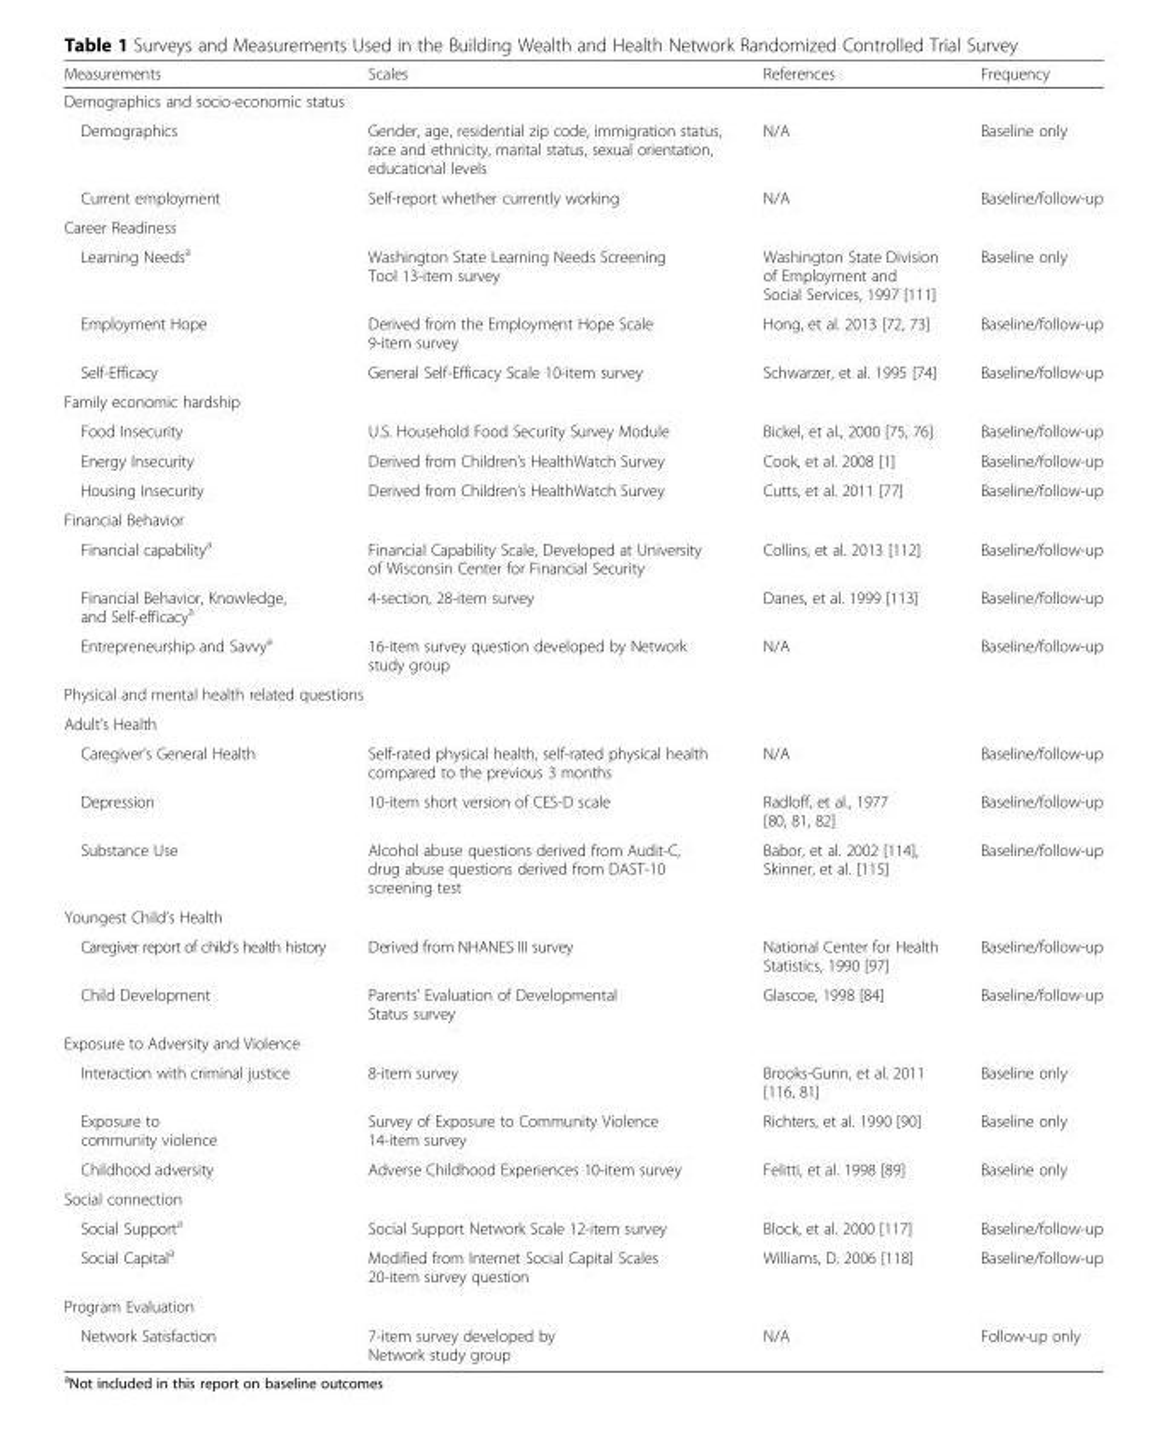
<table><thead><tr><td>Measurements</td><td>Scales</td><td>References</td><td>Frequency</td></tr></thead><tbody><tr><td colspan="4">Demographics and socio-economic status</td></tr><tr><td>Demographics</td><td>Gender, age, residential zip code, immigration status, race and ethnicity, marital status, sexual orientation, educational levels</td><td>N/A</td><td>Baseline only</td></tr><tr><td>Current employment</td><td>Self-report whether currently working</td><td>N/A</td><td>Baseline/follow-up</td></tr><tr><td colspan="4">Career Readiness</td></tr><tr><td>Learning Needs<sup>a</sup></td><td>Washington State Learning Needs Screening Tool 13-item survey</td><td>Washington State Division of Employment and Social Services, 1997 [111]</td><td>Baseline only</td></tr><tr><td>Employment Hope</td><td>Derived from the Employment Hope Scale 9-item survey</td><td>Hong, et al. 2013 [72, 73]</td><td>Baseline/follow-up</td></tr><tr><td>Self-Efficacy</td><td>General Self-Efficacy Scale 10-item survey</td><td>Schwarzer, et al. 1995 [74]</td><td>Baseline/follow-up</td></tr><tr><td colspan="4">Family economic hardship</td></tr><tr><td>Food Insecurity</td><td>U.S. Household Food Security Survey Module</td><td>Bickel, et al., 2000 [75, 76]</td><td>Baseline/follow-up</td></tr><tr><td>Energy Insecurity</td><td>Derived from Children’s HealthWatch Survey</td><td>Cook, et al. 2008 [1]</td><td>Baseline/follow-up</td></tr><tr><td>Housing Insecurity</td><td>Derived from Children’s HealthWatch Survey</td><td>Cutts, et al. 2011 [77]</td><td>Baseline/follow-up</td></tr><tr><td colspan="4">Financial Behavior</td></tr><tr><td>Financial capability<sup>a</sup></td><td>Financial Capability Scale, Developed at University of Wisconsin Center for Financial Security</td><td>Collins, et al. 2013 [112]</td><td>Baseline/follow-up</td></tr><tr><td>Financial Behavior, Knowledge, and Self-efficacy<sup>a</sup></td><td>4-section, 28-item survey</td><td>Danes, et al. 1999 [113]</td><td>Baseline/follow-up</td></tr><tr><td>Entrepreneurship and Savvy<sup>a</sup></td><td>16-item survey question developed by Network study group</td><td>N/A</td><td>Baseline/follow-up</td></tr><tr><td colspan="4">Physical and mental health related questions</td></tr><tr><td colspan="4">Adult’s Health</td></tr><tr><td>Caregiver’s General Health</td><td>Self-rated physical health, self-rated physical health compared to the previous 3 months</td><td>N/A</td><td>Baseline/follow-up</td></tr><tr><td>Depression</td><td>10-item short version of CES-D scale</td><td>Radloff, et al., 1977 [80, 81, 82]</td><td>Baseline/follow-up</td></tr><tr><td>Substance Use</td><td>Alcohol abuse questions derived from Audit-C, drug abuse questions derived from DAST-10 screening test</td><td>Babor, et al. 2002 [114], Skinner, et al. [115]</td><td>Baseline/follow-up</td></tr><tr><td colspan="4">Youngest Child’s Health</td></tr><tr><td>Caregiver report of child’s health history</td><td>Derived from NHANES III survey</td><td>National Center for Health Statistics, 1990 [97]</td><td>Baseline/follow-up</td></tr><tr><td>Child Development</td><td>Parents’ Evaluation of Developmental Status survey</td><td>Glascoe, 1998 [84]</td><td>Baseline/follow-up</td></tr><tr><td colspan="4">Exposure to Adversity and Violence</td></tr><tr><td>Interaction with criminal justice</td><td>8-item survey</td><td>Brooks-Gunn, et al. 2011 [116, 81]</td><td>Baseline only</td></tr><tr><td>Exposure to community violence</td><td>Survey of Exposure to Community Violence 14-item survey</td><td>Richters, et al. 1990 [90]</td><td>Baseline only</td></tr><tr><td>Childhood adversity</td><td>Adverse Childhood Experiences 10-item survey</td><td>Felitti, et al. 1998 [89]</td><td>Baseline only</td></tr><tr><td colspan="4">Social connection</td></tr><tr><td>Social Support<sup>a</sup></td><td>Social Support Network Scale 12-item survey</td><td>Block, et al. 2000 [117]</td><td>Baseline/follow-up</td></tr><tr><td>Social Capital<sup>a</sup></td><td>Modified from Internet Social Capital Scales 20-item survey question</td><td>Williams, D. 2006 [118]</td><td>Baseline/follow-up</td></tr><tr><td colspan="4">Program Evaluation</td></tr><tr><td>Network Satisfaction</td><td>7-item survey developed by Network study group</td><td>N/A</td><td>Follow-up only</td></tr></tbody></table>